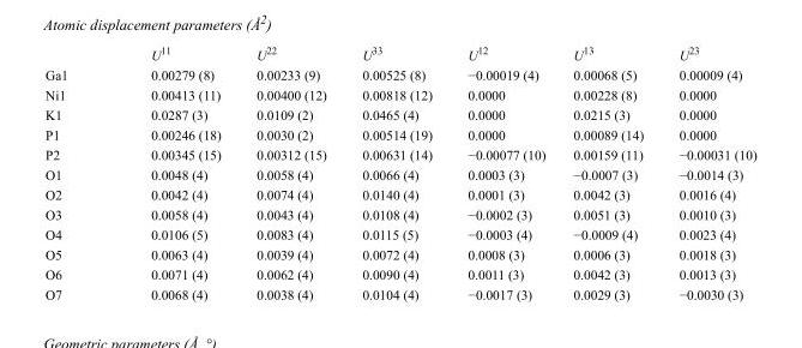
<table><thead><tr><td></td><td>U<sup>11</sup></td><td>U<sup>22</sup></td><td>U<sup>33</sup></td><td>U<sup>12</sup></td><td>U<sup>13</sup></td><td>U<sup>23</sup></td></tr></thead><tbody><tr><td>Ga1</td><td>0.00279 (8)</td><td>0.00233 (9)</td><td>0.00525 (8)</td><td>−0.00019 (4)</td><td>0.00068 (5)</td><td>0.00009 (4)</td></tr><tr><td>Ni1</td><td>0.00413 (11)</td><td>0.00400 (12)</td><td>0.00818 (12)</td><td>0.0000</td><td>0.00228 (8)</td><td>0.0000</td></tr><tr><td>K1</td><td>0.0287 (3)</td><td>0.0109 (2)</td><td>0.0465 (4)</td><td>0.0000</td><td>0.0215 (3)</td><td>0.0000</td></tr><tr><td>P1</td><td>0.00246 (18)</td><td>0.0030 (2)</td><td>0.00514 (19)</td><td>0.0000</td><td>0.00089 (14)</td><td>0.0000</td></tr><tr><td>P2</td><td>0.00345 (15)</td><td>0.00312 (15)</td><td>0.00631 (14)</td><td>−0.00077 (10)</td><td>0.00159 (11)</td><td>−0.00031 (10)</td></tr><tr><td>O1</td><td>0.0048 (4)</td><td>0.0058 (4)</td><td>0.0066 (4)</td><td>0.0003 (3)</td><td>−0.0007 (3)</td><td>−0.0014 (3)</td></tr><tr><td>O2</td><td>0.0042 (4)</td><td>0.0074 (4)</td><td>0.0140 (4)</td><td>0.0001 (3)</td><td>0.0042 (3)</td><td>0.0016 (4)</td></tr><tr><td>O3</td><td>0.0058 (4)</td><td>0.0043 (4)</td><td>0.0108 (4)</td><td>−0.0002 (3)</td><td>0.0051 (3)</td><td>0.0010 (3)</td></tr><tr><td>O4</td><td>0.0106 (5)</td><td>0.0083 (4)</td><td>0.0115 (5)</td><td>−0.0003 (4)</td><td>−0.0009 (4)</td><td>0.0023 (4)</td></tr><tr><td>O5</td><td>0.0063 (4)</td><td>0.0039 (4)</td><td>0.0072 (4)</td><td>0.0008 (3)</td><td>0.0006 (3)</td><td>0.0018 (3)</td></tr><tr><td>O6</td><td>0.0071 (4)</td><td>0.0062 (4)</td><td>0.0090 (4)</td><td>0.0011 (3)</td><td>0.0042 (3)</td><td>0.0013 (3)</td></tr><tr><td>O7</td><td>0.0068 (4)</td><td>0.0038 (4)</td><td>0.0104 (4)</td><td>−0.0017 (3)</td><td>0.0029 (3)</td><td>−0.0030 (3)</td></tr></tbody></table>